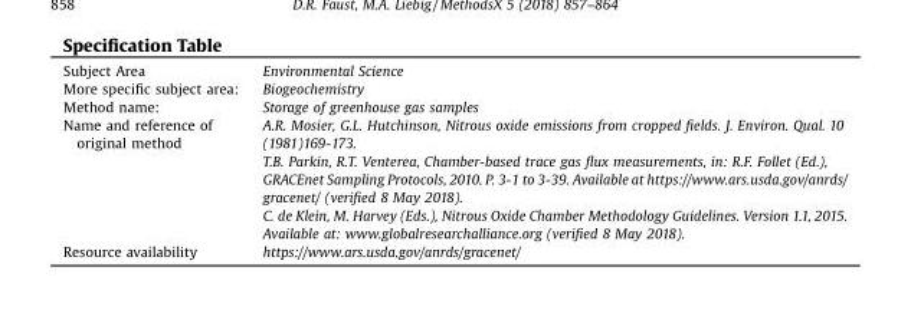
<table><tbody><tr><td>Subject Area</td><td>Environmental Science</td></tr><tr><td>More specific subject area:</td><td>Biogeochemistry</td></tr><tr><td>Method name:</td><td>Storage of greenhouse gas samples</td></tr><tr><td>Name and reference of original method</td><td>A.R. Mosier, G.L. Hutchinson, Nitrous oxide emissions from cropped fields. J. Environ. Qual. 10 (1981)169-173. T.B. Parkin, R.T. Venterea, Chamber-based trace gas flux measurements, in: R.F. Follet (Ed.), GRACEnet Sampling Protocols, 2010. P. 3-1 to 3-39. Available at https://www.ars.usda.gov/anrds/ gracenet/ (verified 8 May 2018). C. de Klein, M. Harvey (Eds.), Nitrous Oxide Chamber Methodology Guidelines. Version 1.1, 2015. Available at: www.globalresearchalliance.org (verified 8 May 2018).</td></tr><tr><td>Resource availability</td><td>https://www.ars.usda.gov/anrds/gracenet/</td></tr></tbody></table>